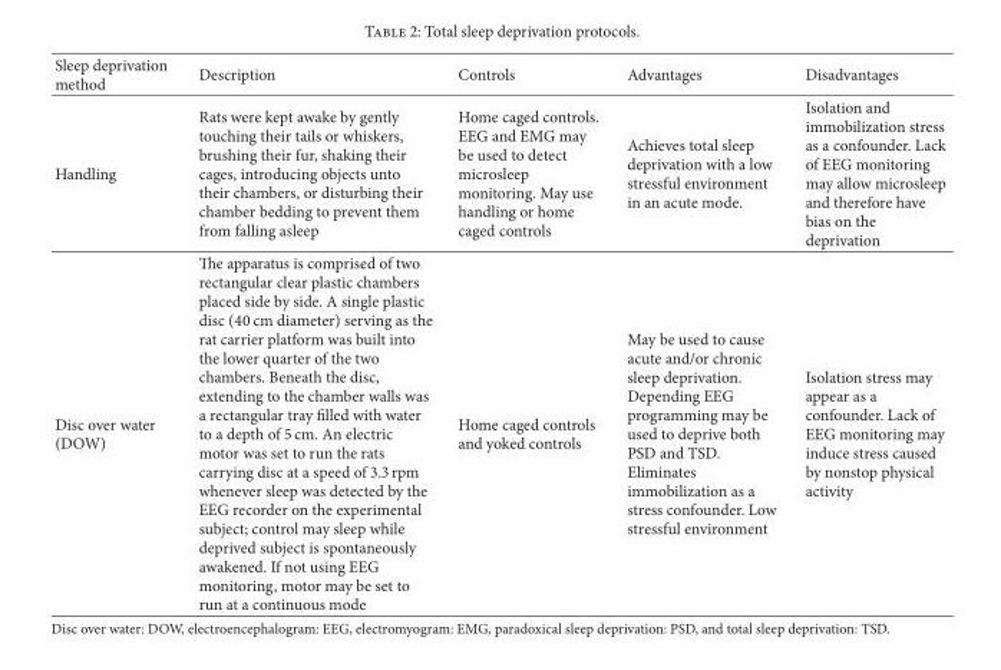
<table><thead><tr><td>Sleep deprivation method</td><td>Description</td><td>Controls</td><td>Advantages</td><td>Disadvantages</td></tr></thead><tbody><tr><td>Handling</td><td>Rats were kept awake by gently touching their tails or whiskers, brushing their fur, shaking their cages, introducing objects unto their chambers, or disturbing their chamber bedding to prevent them from falling asleep</td><td>Home caged controls. EEG and EMG may be used to detect microsleep monitoring. May use handling or home caged controls</td><td>Achieves total sleep deprivation with a low stressful environment in an acute mode.</td><td>Isolation and immobilization stress as a confounder. Lack of EEG monitoring may allow microsleep and therefore have bias on the deprivation</td></tr><tr><td>Disc over water (DOW)</td><td>The apparatus is comprised of two rectangular clear plastic chambers placed side by side. A single plastic disc (40 cm diameter) serving as the rat carrier platform was built into the lower quarter of the two chambers. Beneath the disc, extending to the chamber walls was a rectangular tray filled with water to a depth of 5 cm. An electric motor was set to run the rats carrying disc at a speed of 3.3 rpm whenever sleep was detected by the EEG recorder on the experimental subject; control may sleep while deprived subject is spontaneously awakened. If not using EEG monitoring, motor may be set to run at a continuous mode</td><td>Home caged controls and yoked controls</td><td>May be used to cause acute and/or chronic sleep deprivation. Depending EEG programming may be used to deprive both PSD and TSD. Eliminates immobilization as a stress confounder. Low stressful environment</td><td>Isolation stress may appear as a confounder. Lack of EEG monitoring may induce stress caused by nonstop physical activity</td></tr></tbody></table>